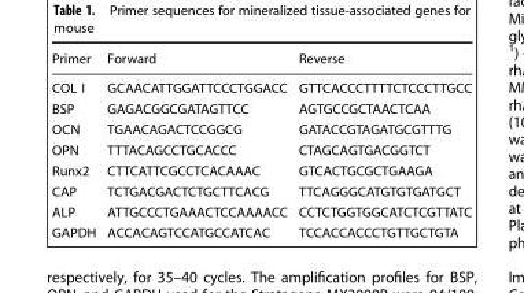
<table><thead><tr><td>Primer</td><td>Forward</td><td>Reverse</td></tr></thead><tbody><tr><td>COL I</td><td>GCAACATTGGATTCCCTGGACC</td><td>GTTCACCCTTTTCTCCCTTGCC</td></tr><tr><td>BSP</td><td>GAGACGGCGATAGTTCC</td><td>AGTGCCGCTAACTCAA</td></tr><tr><td>OCN</td><td>TGAACAGACTCCGGCG</td><td>GATACCGTAGATGCGTTTG</td></tr><tr><td>OPN</td><td>TTTACAGCCTGCACCC</td><td>CTAGCAGTGACGGTCT</td></tr><tr><td>Runx2</td><td>CTTCATTCGCCTCACAAAC</td><td>GTCACTGCGCTGAAGA</td></tr><tr><td>CAP</td><td>TCTGACGACTCTGCTTCACG</td><td>TTCAGGGCATGTGTGATGCT</td></tr><tr><td>ALP</td><td>ATTGCCCTGAAACTCCAAAACC</td><td>CCTCTGGTGGCATCTCGTTATC</td></tr><tr><td>GAPDH</td><td>ACCACAGTCCATGCCATCAC</td><td>TCCACCACCCTGTTGCTGTA</td></tr></tbody></table>